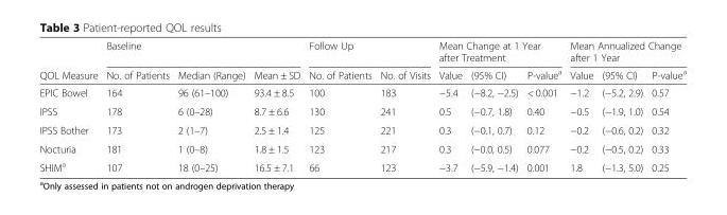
<table><thead><tr><td rowspan="2">QOL Measure</td><td colspan="3">Baseline</td><td colspan="2">Follow Up</td><td colspan="3">Mean Change at 1 Year after Treatment</td><td colspan="3">Mean Annualized Change after 1 Year</td></tr><tr><td>No. of Patients</td><td>Median (Range)</td><td>Mean ± SD</td><td>No. of Patients</td><td>No. of Visits</td><td>Value</td><td>(95% CI)</td><td>P-value<sup>a</sup></td><td>Value</td><td>(95% CI)</td><td>P-value<sup>a</sup></td></tr></thead><tbody><tr><td>EPIC Bowel</td><td>164</td><td>96 (61–100)</td><td>93.4 ± 8.5</td><td>100</td><td>183</td><td>−5.4</td><td>(−8.2, −2.5)</td><td>&lt; 0.001</td><td>−1.2</td><td>(−5.2, 2.9)</td><td>0.57</td></tr><tr><td>IPSS</td><td>178</td><td>6 (0–28)</td><td>8.7 ± 6.6</td><td>130</td><td>241</td><td>0.5</td><td>(−0.7, 1.8)</td><td>0.40</td><td>−0.5</td><td>(−1.9, 1.0)</td><td>0.54</td></tr><tr><td>IPSS Bother</td><td>173</td><td>2 (1–7)</td><td>2.5 ± 1.4</td><td>125</td><td>221</td><td>0.3</td><td>(−0.1, 0.7)</td><td>0.12</td><td>−0.2</td><td>(−0.6, 0.2)</td><td>0.32</td></tr><tr><td>Nocturia</td><td>181</td><td>1 (0–8)</td><td>1.8 ± 1.5</td><td>123</td><td>217</td><td>0.3</td><td>(−0.0, 0.5)</td><td>0.077</td><td>−0.2</td><td>(−0.5, 0.2)</td><td>0.33</td></tr><tr><td>SHIM<sup>a</sup></td><td>107</td><td>18 (0–25)</td><td>16.5 ± 7.1</td><td>66</td><td>123</td><td>−3.7</td><td>(−5.9, −1.4)</td><td>0.001</td><td>1.8</td><td>(−1.3, 5.0)</td><td>0.25</td></tr></tbody></table>